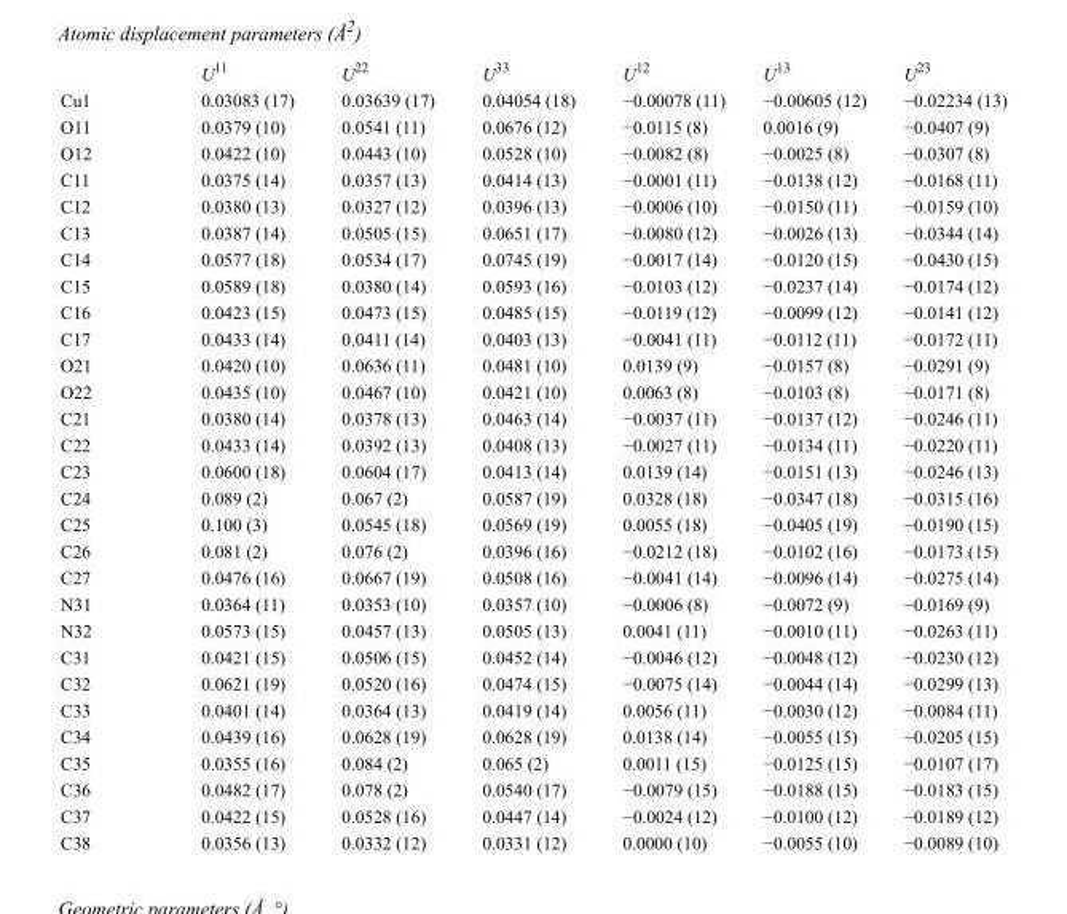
<table><thead><tr><td></td><td>U<sup>11</sup></td><td>U<sup>22</sup></td><td>U<sup>33</sup></td><td>U<sup>12</sup></td><td>U<sup>13</sup></td><td>U<sup>23</sup></td></tr></thead><tbody><tr><td>Cu1</td><td>0.03083 (17)</td><td>0.03639 (17)</td><td>0.04054 (18)</td><td>−0.00078 (11)</td><td>−0.00605 (12)</td><td>−0.02234 (13)</td></tr><tr><td>O11</td><td>0.0379 (10)</td><td>0.0541 (11)</td><td>0.0676 (12)</td><td>−0.0115 (8)</td><td>0.0016 (9)</td><td>−0.0407 (9)</td></tr><tr><td>O12</td><td>0.0422 (10)</td><td>0.0443 (10)</td><td>0.0528 (10)</td><td>−0.0082 (8)</td><td>−0.0025 (8)</td><td>−0.0307 (8)</td></tr><tr><td>C11</td><td>0.0375 (14)</td><td>0.0357 (13)</td><td>0.0414 (13)</td><td>−0.0001 (11)</td><td>−0.0138 (12)</td><td>−0.0168 (11)</td></tr><tr><td>C12</td><td>0.0380 (13)</td><td>0.0327 (12)</td><td>0.0396 (13)</td><td>−0.0006 (10)</td><td>−0.0150 (11)</td><td>−0.0159 (10)</td></tr><tr><td>C13</td><td>0.0387 (14)</td><td>0.0505 (15)</td><td>0.0651 (17)</td><td>−0.0080 (12)</td><td>−0.0026 (13)</td><td>−0.0344 (14)</td></tr><tr><td>C14</td><td>0.0577 (18)</td><td>0.0534 (17)</td><td>0.0745 (19)</td><td>−0.0017 (14)</td><td>−0.0120 (15)</td><td>−0.0430 (15)</td></tr><tr><td>C15</td><td>0.0589 (18)</td><td>0.0380 (14)</td><td>0.0593 (16)</td><td>−0.0103 (12)</td><td>−0.0237 (14)</td><td>−0.0174 (12)</td></tr><tr><td>C16</td><td>0.0423 (15)</td><td>0.0473 (15)</td><td>0.0485 (15)</td><td>−0.0119 (12)</td><td>−0.0099 (12)</td><td>−0.0141 (12)</td></tr><tr><td>C17</td><td>0.0433 (14)</td><td>0.0411 (14)</td><td>0.0403 (13)</td><td>−0.0041 (11)</td><td>−0.0112 (11)</td><td>−0.0172 (11)</td></tr><tr><td>O21</td><td>0.0420 (10)</td><td>0.0636 (11)</td><td>0.0481 (10)</td><td>0.0139 (9)</td><td>−0.0157 (8)</td><td>−0.0291 (9)</td></tr><tr><td>O22</td><td>0.0435 (10)</td><td>0.0467 (10)</td><td>0.0421 (10)</td><td>0.0063 (8)</td><td>−0.0103 (8)</td><td>−0.0171 (8)</td></tr><tr><td>C21</td><td>0.0380 (14)</td><td>0.0378 (13)</td><td>0.0463 (14)</td><td>−0.0037 (11)</td><td>−0.0137 (12)</td><td>−0.0246 (11)</td></tr><tr><td>C22</td><td>0.0433 (14)</td><td>0.0392 (13)</td><td>0.0408 (13)</td><td>−0.0027 (11)</td><td>−0.0134 (11)</td><td>−0.0220 (11)</td></tr><tr><td>C23</td><td>0.0600 (18)</td><td>0.0604 (17)</td><td>0.0413 (14)</td><td>0.0139 (14)</td><td>−0.0151 (13)</td><td>−0.0246 (13)</td></tr><tr><td>C24</td><td>0.089 (2)</td><td>0.067 (2)</td><td>0.0587 (19)</td><td>0.0328 (18)</td><td>−0.0347 (18)</td><td>−0.0315 (16)</td></tr><tr><td>C25</td><td>0.100 (3)</td><td>0.0545 (18)</td><td>0.0569 (19)</td><td>0.0055 (18)</td><td>−0.0405 (19)</td><td>−0.0190 (15)</td></tr><tr><td>C26</td><td>0.081 (2)</td><td>0.076 (2)</td><td>0.0396 (16)</td><td>−0.0212 (18)</td><td>−0.0102 (16)</td><td>−0.0173 (15)</td></tr><tr><td>C27</td><td>0.0476 (16)</td><td>0.0667 (19)</td><td>0.0508 (16)</td><td>−0.0041 (14)</td><td>−0.0096 (14)</td><td>−0.0275 (14)</td></tr><tr><td>N31</td><td>0.0364 (11)</td><td>0.0353 (10)</td><td>0.0357 (10)</td><td>−0.0006 (8)</td><td>−0.0072 (9)</td><td>−0.0169 (9)</td></tr><tr><td>N32</td><td>0.0573 (15)</td><td>0.0457 (13)</td><td>0.0505 (13)</td><td>0.0041 (11)</td><td>−0.0010 (11)</td><td>−0.0263 (11)</td></tr><tr><td>C31</td><td>0.0421 (15)</td><td>0.0506 (15)</td><td>0.0452 (14)</td><td>−0.0046 (12)</td><td>−0.0048 (12)</td><td>−0.0230 (12)</td></tr><tr><td>C32</td><td>0.0621 (19)</td><td>0.0520 (16)</td><td>0.0474 (15)</td><td>−0.0075 (14)</td><td>−0.0044 (14)</td><td>−0.0299 (13)</td></tr><tr><td>C33</td><td>0.0401 (14)</td><td>0.0364 (13)</td><td>0.0419 (14)</td><td>0.0056 (11)</td><td>−0.0030 (12)</td><td>−0.0084 (11)</td></tr><tr><td>C34</td><td>0.0439 (16)</td><td>0.0628 (19)</td><td>0.0628 (19)</td><td>0.0138 (14)</td><td>−0.0055 (15)</td><td>−0.0205 (15)</td></tr><tr><td>C35</td><td>0.0355 (16)</td><td>0.084 (2)</td><td>0.065 (2)</td><td>0.0011 (15)</td><td>−0.0125 (15)</td><td>−0.0107 (17)</td></tr><tr><td>C36</td><td>0.0482 (17)</td><td>0.078 (2)</td><td>0.0540 (17)</td><td>−0.0079 (15)</td><td>−0.0188 (15)</td><td>−0.0183 (15)</td></tr><tr><td>C37</td><td>0.0422 (15)</td><td>0.0528 (16)</td><td>0.0447 (14)</td><td>−0.0024 (12)</td><td>−0.0100 (12)</td><td>−0.0189 (12)</td></tr><tr><td>C38</td><td>0.0356 (13)</td><td>0.0332 (12)</td><td>0.0331 (12)</td><td>0.0000 (10)</td><td>−0.0055 (10)</td><td>−0.0089 (10)</td></tr></tbody></table>